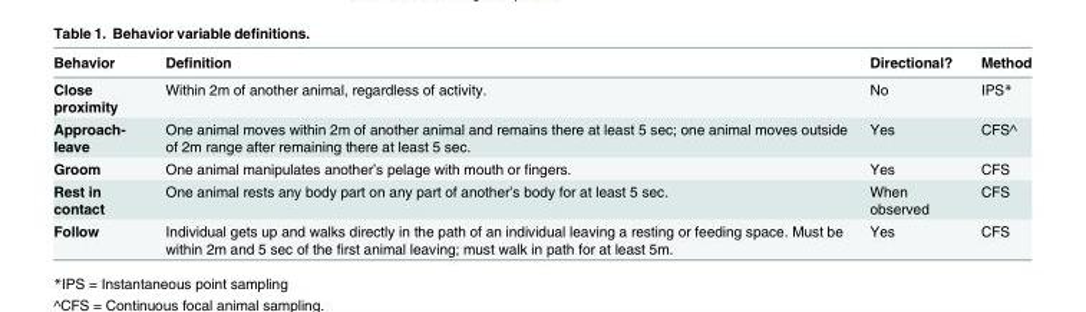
<table><thead><tr><td>Behavior</td><td>Definition</td><td>Directional?</td><td>Method</td></tr></thead><tbody><tr><td>Close proximity</td><td>Within 2m of another animal, regardless of activity.</td><td>No</td><td>IPS*</td></tr><tr><td>Approach- leave</td><td>One animal moves within 2m of another animal and remains there at least 5 sec; one animal moves outside of 2m range after remaining there at least 5 sec.</td><td>Yes</td><td>CFS^</td></tr><tr><td>Groom</td><td>One animal manipulates another’s pelage with mouth or fingers.</td><td>Yes</td><td>CFS</td></tr><tr><td>Rest in contact</td><td>One animal rests any body part on any part of another’s body for at least 5 sec.</td><td>When observed</td><td>CFS</td></tr><tr><td>Follow</td><td>Individual gets up and walks directly in the path of an individual leaving a resting or feeding space. Must be within 2m and 5 sec of the first animal leaving; must walk in path for at least 5m.</td><td>Yes</td><td>CFS</td></tr></tbody></table>